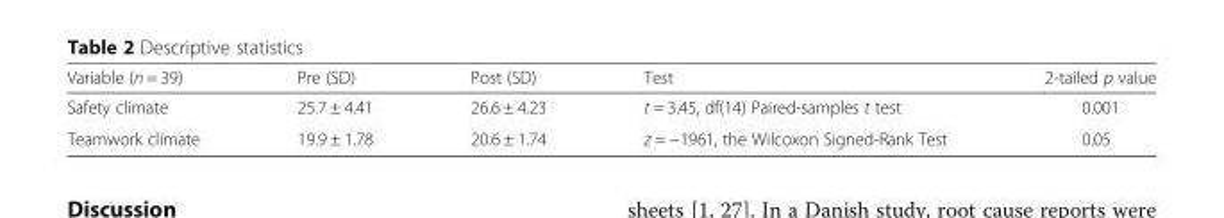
<table><thead><tr><td>Variable (n = 39)</td><td>Pre (SD)</td><td>Post (SD)</td><td>Test</td><td>2-tailed p value</td></tr></thead><tbody><tr><td>Safety climate</td><td>25.7 ± 4.41</td><td>26.6 ± 4.23</td><td>t = 3.45, df(14) Paired-samples t test</td><td>0.001</td></tr><tr><td>Teamwork climate</td><td>19.9 ± 1.78</td><td>20.6 ± 1.74</td><td>z = −1961, the Wilcoxon Signed-Rank Test</td><td>0.05</td></tr></tbody></table>